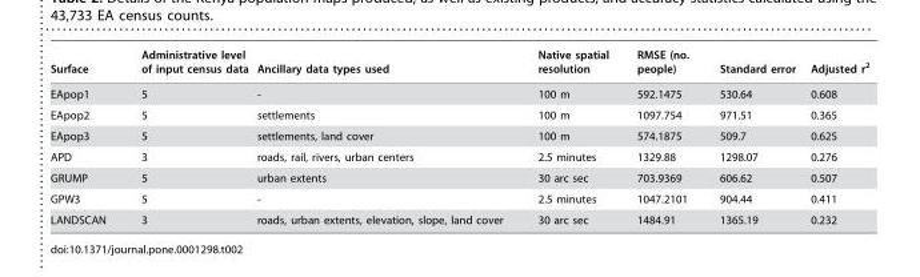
<table><thead><tr><td>Surface</td><td>Administrative level of input census data</td><td>Ancillary data types used</td><td>Native spatial resolution</td><td>RMSE (no. people)</td><td>Standard error</td><td>Adjusted r<sup>2</sup></td></tr></thead><tbody><tr><td>EApop1</td><td>5</td><td>-</td><td>100 m</td><td>592.1475</td><td>530.64</td><td>0.608</td></tr><tr><td>EApop2</td><td>5</td><td>settlements</td><td>100 m</td><td>1097.754</td><td>971.51</td><td>0.365</td></tr><tr><td>EApop3</td><td>5</td><td>settlements, land cover</td><td>100 m</td><td>574.1875</td><td>509.7</td><td>0.625</td></tr><tr><td>APD</td><td>3</td><td>roads, rail, rivers, urban centers</td><td>2.5 minutes</td><td>1329.88</td><td>1298.07</td><td>0.276</td></tr><tr><td>GRUMP</td><td>5</td><td>urban extents</td><td>30 arc sec</td><td>703.9369</td><td>606.62</td><td>0.507</td></tr><tr><td>GPW3</td><td>5</td><td>-</td><td>2.5 minutes</td><td>1047.2101</td><td>904.44</td><td>0.411</td></tr><tr><td>LANDSCAN</td><td>3</td><td>roads, urban extents, elevation, slope, land cover</td><td>30 arc sec</td><td>1484.91</td><td>1365.19</td><td>0.232</td></tr></tbody></table>